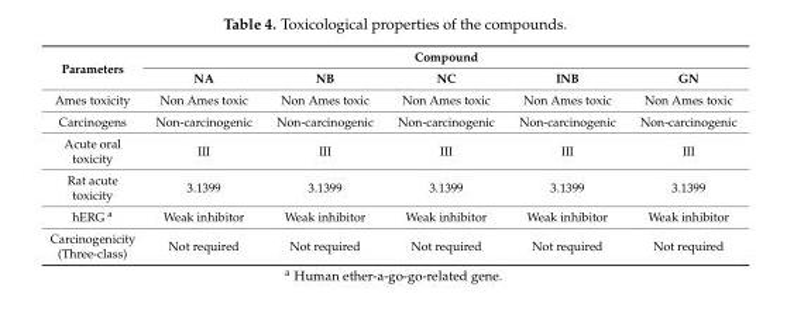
<table><thead><tr><td rowspan="2">Parameters</td><td colspan="5">Compound</td></tr><tr><td>NA</td><td>NB</td><td>NC</td><td>INB</td><td>GN</td></tr></thead><tbody><tr><td>Ames toxicity</td><td>Non Ames toxic</td><td>Non Ames toxic</td><td>Non Ames toxic</td><td>Non Ames toxic</td><td>Non Ames toxic</td></tr><tr><td>Carcinogens</td><td>Non-carcinogenic</td><td>Non-carcinogenic</td><td>Non-carcinogenic</td><td>Non-carcinogenic</td><td>Non-carcinogenic</td></tr><tr><td>Acute oral toxicity</td><td>III</td><td>III</td><td>III</td><td>III</td><td>III</td></tr><tr><td>Rat acute toxicity</td><td>3.1399</td><td>3.1399</td><td>3.1399</td><td>3.1399</td><td>3.1399</td></tr><tr><td>hERG <sup>a</sup></td><td>Weak inhibitor</td><td>Weak inhibitor</td><td>Weak inhibitor</td><td>Weak inhibitor</td><td>Weak inhibitor</td></tr><tr><td>Carcinogenicity (Three-class)</td><td>Not required</td><td>Not required</td><td>Not required</td><td>Not required</td><td>Not required</td></tr></tbody></table>